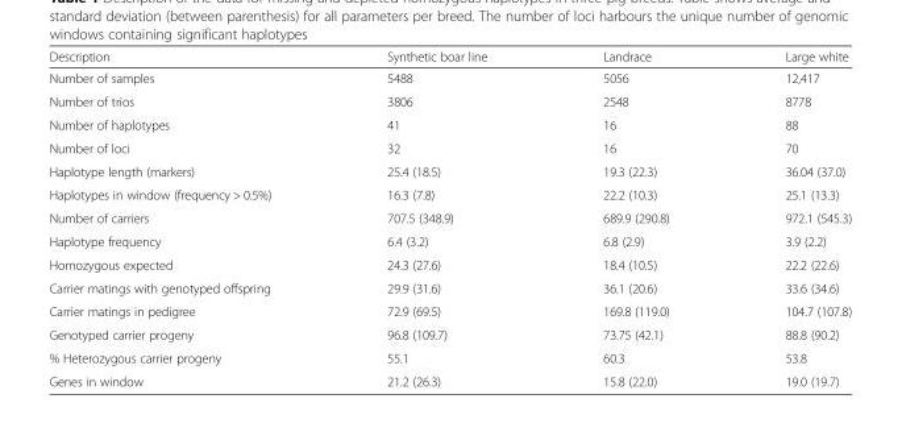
<table><thead><tr><td>Description</td><td>Synthetic boar line</td><td>Landrace</td><td>Large white</td></tr></thead><tbody><tr><td>Number of samples</td><td>5488</td><td>5056</td><td>12,417</td></tr><tr><td>Number of trios</td><td>3806</td><td>2548</td><td>8778</td></tr><tr><td>Number of haplotypes</td><td>41</td><td>16</td><td>88</td></tr><tr><td>Number of loci</td><td>32</td><td>16</td><td>70</td></tr><tr><td>Haplotype length (markers)</td><td>25.4 (18.5)</td><td>19.3 (22.3)</td><td>36.04 (37.0)</td></tr><tr><td>Haplotypes in window (frequency &gt; 0.5%)</td><td>16.3 (7.8)</td><td>22.2 (10.3)</td><td>25.1 (13.3)</td></tr><tr><td>Number of carriers</td><td>707.5 (348.9)</td><td>689.9 (290.8)</td><td>972.1 (545.3)</td></tr><tr><td>Haplotype frequency</td><td>6.4 (3.2)</td><td>6.8 (2.9)</td><td>3.9 (2.2)</td></tr><tr><td>Homozygous expected</td><td>24.3 (27.6)</td><td>18.4 (10.5)</td><td>22.2 (22.6)</td></tr><tr><td>Carrier matings with genotyped offspring</td><td>29.9 (31.6)</td><td>36.1 (20.6)</td><td>33.6 (34.6)</td></tr><tr><td>Carrier matings in pedigree</td><td>72.9 (69.5)</td><td>169.8 (119.0)</td><td>104.7 (107.8)</td></tr><tr><td>Genotyped carrier progeny</td><td>96.8 (109.7)</td><td>73.75 (42.1)</td><td>88.8 (90.2)</td></tr><tr><td>% Heterozygous carrier progeny</td><td>55.1</td><td>60.3</td><td>53.8</td></tr><tr><td>Genes in window</td><td>21.2 (26.3)</td><td>15.8 (22.0)</td><td>19.0 (19.7)</td></tr></tbody></table>